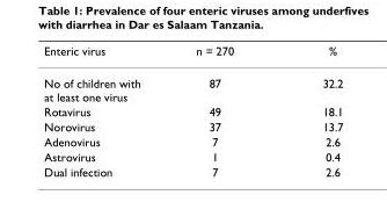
<table><thead><tr><td>Enteric virus</td><td>n = 270</td><td>%</td></tr></thead><tbody><tr><td>No of children with at least one virus</td><td>87</td><td>32.2</td></tr><tr><td>Rotavirus</td><td>49</td><td>18.1</td></tr><tr><td>Norovirus</td><td>37</td><td>13.7</td></tr><tr><td>Adenovirus</td><td>7</td><td>2.6</td></tr><tr><td>Astrovirus</td><td>1</td><td>0.4</td></tr><tr><td>Dual infection</td><td>7</td><td>2.6</td></tr></tbody></table>